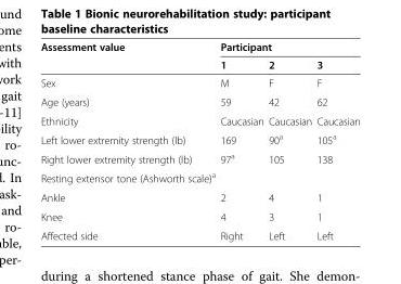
<table><thead><tr><td rowspan="2">Assessment value</td><td colspan="3">Participant</td></tr><tr><td>1</td><td>2</td><td>3</td></tr></thead><tbody><tr><td>Sex</td><td>M</td><td>F</td><td>F</td></tr><tr><td>Age (years)</td><td>59</td><td>42</td><td>62</td></tr><tr><td>Ethnicity</td><td>Caucasian</td><td>Caucasian</td><td>Caucasian</td></tr><tr><td>Left lower extremity strength (lb)</td><td>169</td><td>90<sup>a</sup></td><td>105<sup>a</sup></td></tr><tr><td>Right lower extremity strength (lb)</td><td>97<sup>a</sup></td><td>105</td><td>138</td></tr><tr><td colspan="4">Resting extensor tone (Ashworth scale)<sup>a</sup></td></tr><tr><td>Ankle</td><td>2</td><td>4</td><td>1</td></tr><tr><td>Knee</td><td>4</td><td>3</td><td>1</td></tr><tr><td>Affected side</td><td>Right</td><td>Left</td><td>Left</td></tr></tbody></table>